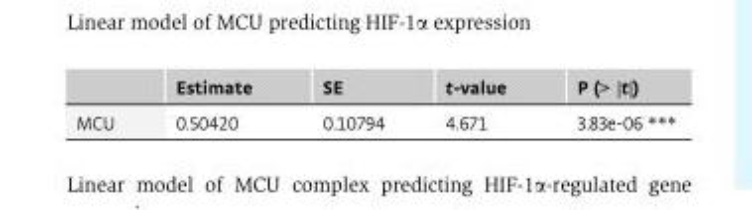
<table><thead><tr><td></td><td>Estimate</td><td>SE</td><td>t-value</td><td>P (&gt; |t|)</td></tr></thead><tbody><tr><td>MCU</td><td>0.50420</td><td>0.10794</td><td>4.671</td><td>3.83e-06 ***</td></tr></tbody></table>